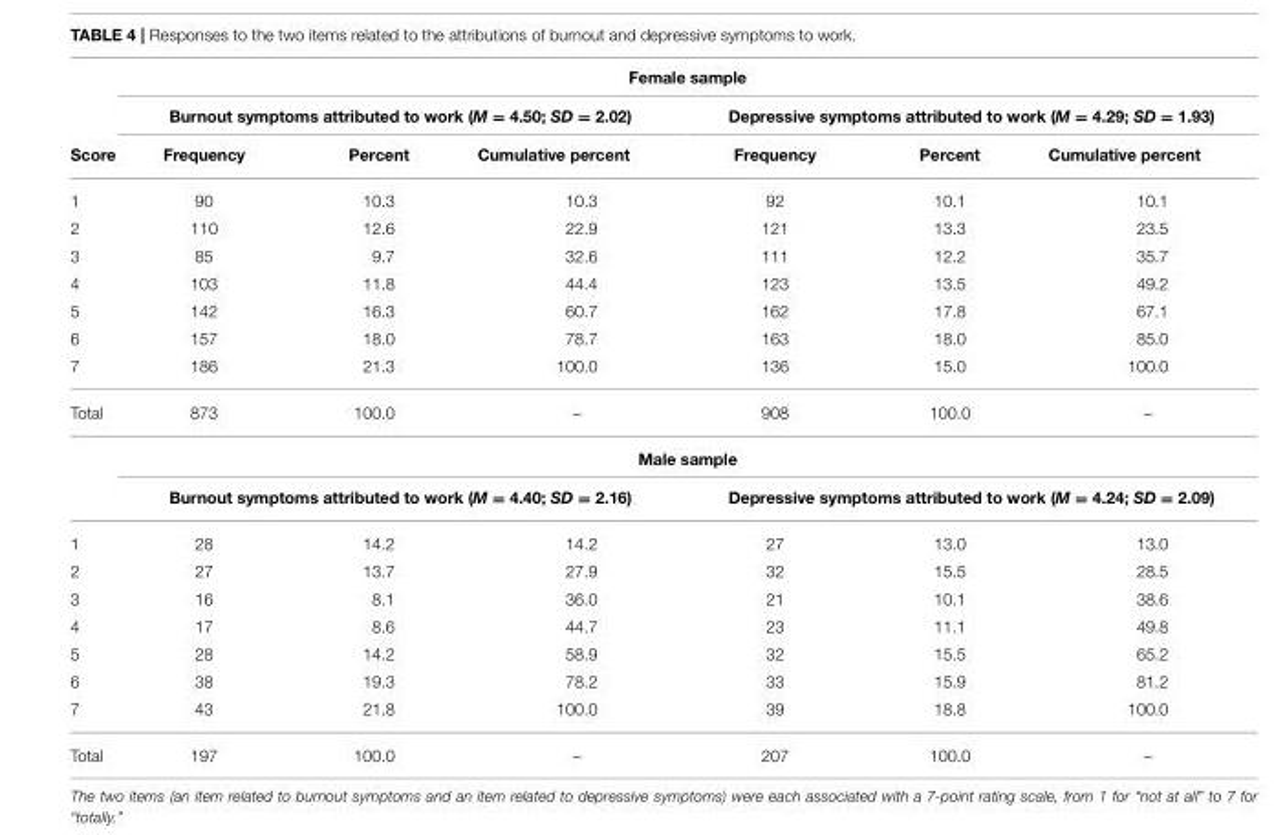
<table><thead><tr><td rowspan="3">Score</td><td colspan="6">Female sample</td></tr><tr><td colspan="3">Burnout symptoms attributed to work (M = 4.50; SD = 2.02)</td><td colspan="3">Depressive symptoms attributed to work (M = 4.29; SD = 1.93)</td></tr><tr><td>Frequency</td><td>Percent</td><td>Cumulative percent</td><td>Frequency</td><td>Percent</td><td>Cumulative percent</td></tr></thead><tbody><tr><td>1</td><td>90</td><td>10.3</td><td>10.3</td><td>92</td><td>10.1</td><td>10.1</td></tr><tr><td>2</td><td>110</td><td>12.6</td><td>22.9</td><td>121</td><td>13.3</td><td>23.5</td></tr><tr><td>3</td><td>85</td><td>9.7</td><td>32.6</td><td>111</td><td>12.2</td><td>35.7</td></tr><tr><td>4</td><td>103</td><td>11.8</td><td>44.4</td><td>123</td><td>13.5</td><td>49.2</td></tr><tr><td>5</td><td>142</td><td>16.3</td><td>60.7</td><td>162</td><td>17.8</td><td>67.1</td></tr><tr><td>6</td><td>157</td><td>18.0</td><td>78.7</td><td>163</td><td>18.0</td><td>85.0</td></tr><tr><td>7</td><td>186</td><td>21.3</td><td>100.0</td><td>136</td><td>15.0</td><td>100.0</td></tr><tr><td rowspan="3">Total</td><td>873</td><td>100.0</td><td>–</td><td>908</td><td>100.0</td><td>–</td></tr><tr><td colspan="6">Male sample</td></tr><tr><td colspan="3">Burnout symptoms attributed to work (M = 4.40; SD = 2.16)</td><td colspan="3">Depressive symptoms attributed to work (M = 4.24; SD = 2.09)</td></tr><tr><td>1</td><td>28</td><td>14.2</td><td>14.2</td><td>27</td><td>13.0</td><td>13.0</td></tr><tr><td>2</td><td>27</td><td>13.7</td><td>27.9</td><td>32</td><td>15.5</td><td>28.5</td></tr><tr><td>3</td><td>16</td><td>8.1</td><td>36.0</td><td>21</td><td>10.1</td><td>38.6</td></tr><tr><td>4</td><td>17</td><td>8.6</td><td>44.7</td><td>23</td><td>11.1</td><td>49.8</td></tr><tr><td>5</td><td>28</td><td>14.2</td><td>58.9</td><td>32</td><td>15.5</td><td>65.2</td></tr><tr><td>6</td><td>38</td><td>19.3</td><td>78.2</td><td>33</td><td>15.9</td><td>81.2</td></tr><tr><td>7</td><td>43</td><td>21.8</td><td>100.0</td><td>39</td><td>18.8</td><td>100.0</td></tr><tr><td>Total</td><td>197</td><td>100.0</td><td>–</td><td>207</td><td>100.0</td><td>–</td></tr></tbody></table>